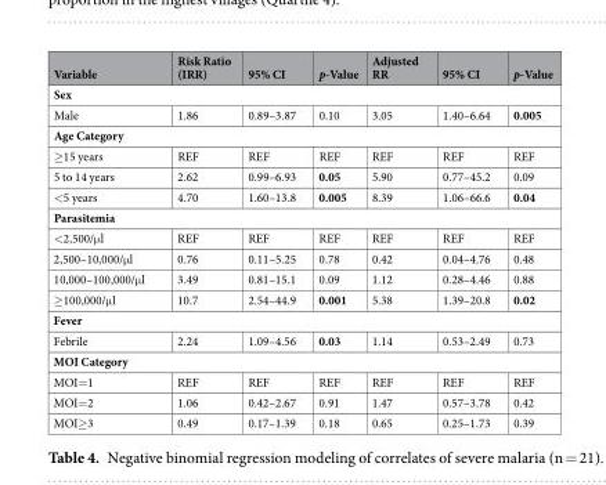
<table><thead><tr><td>Variable</td><td>Risk Ratio (IRR)</td><td>95% CI</td><td>p-Value</td><td>Adjusted RR</td><td>95% CI</td><td>p-Value</td></tr></thead><tbody><tr><td colspan="7">Sex</td></tr><tr><td>Male</td><td>1.86</td><td>0.89–3.87</td><td>0.10</td><td>3.05</td><td>1.40–6.64</td><td>0.005</td></tr><tr><td colspan="7">Age Category</td></tr><tr><td>≥15 years</td><td>REF</td><td>REF</td><td>REF</td><td>REF</td><td>REF</td><td>REF</td></tr><tr><td>5 to 14 years</td><td>2.62</td><td>0.99–6.93</td><td>0.05</td><td>5.90</td><td>0.77–45.2</td><td>0.09</td></tr><tr><td>&lt;5 years</td><td>4.70</td><td>1.60–13.8</td><td>0.005</td><td>8.39</td><td>1.06–66.6</td><td>0.04</td></tr><tr><td colspan="7">Parasitemia</td></tr><tr><td>&lt;2,500/μl</td><td>REF</td><td>REF</td><td>REF</td><td>REF</td><td>REF</td><td>REF</td></tr><tr><td>2,500–10,000/μl</td><td>0.76</td><td>0.11–5.25</td><td>0.78</td><td>0.42</td><td>0.04–4.76</td><td>0.48</td></tr><tr><td>10,000–100,000/μl</td><td>3.49</td><td>0.81–15.1</td><td>0.09</td><td>1.12</td><td>0.28–4.46</td><td>0.88</td></tr><tr><td>≥100,000/μl</td><td>10.7</td><td>2.54–44.9</td><td>0.001</td><td>5.38</td><td>1.39–20.8</td><td>0.02</td></tr><tr><td colspan="7">Fever</td></tr><tr><td>Febrile</td><td>2.24</td><td>1.09–4.56</td><td>0.03</td><td>1.14</td><td>0.53–2.49</td><td>0.73</td></tr><tr><td colspan="7">MOI Category</td></tr><tr><td>MOI=1</td><td>REF</td><td>REF</td><td>REF</td><td>REF</td><td>REF</td><td>REF</td></tr><tr><td>MOI=2</td><td>1.06</td><td>0.42–2.67</td><td>0.91</td><td>1.47</td><td>0.57–3.78</td><td>0.42</td></tr><tr><td>MOI≥3</td><td>0.49</td><td>0.17–1.39</td><td>0.18</td><td>0.65</td><td>0.25–1.73</td><td>0.39</td></tr></tbody></table>